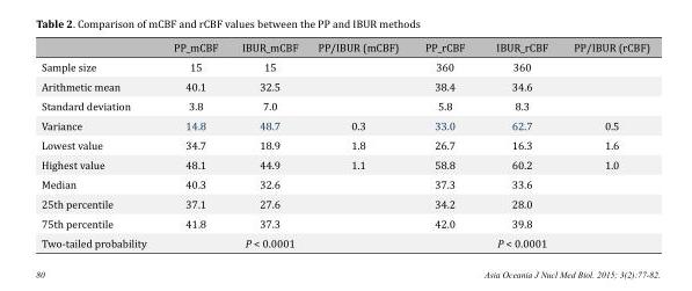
<table><thead><tr><td></td><td>PP_mCBF</td><td>IBUR_mCBF</td><td>PP/IBUR (mCBF)</td><td>PP_rCBF</td><td>IBUR_rCBF</td><td>PP/IBUR (rCBF)</td></tr></thead><tbody><tr><td>Sample size</td><td>15</td><td>15</td><td></td><td>360</td><td>360</td><td></td></tr><tr><td>Arithmetic mean</td><td>40.1</td><td>32.5</td><td></td><td>38.4</td><td>34.6</td><td></td></tr><tr><td>Standard deviation</td><td>3.8</td><td>7.0</td><td></td><td>5.8</td><td>8.3</td><td></td></tr><tr><td>Variance</td><td>14.8</td><td>48.7</td><td>0.3</td><td>33.0</td><td>62.7</td><td>0.5</td></tr><tr><td>Lowest value</td><td>34.7</td><td>18.9</td><td>1.8</td><td>26.7</td><td>16.3</td><td>1.6</td></tr><tr><td>Highest value</td><td>48.1</td><td>44.9</td><td>1.1</td><td>58.8</td><td>60.2</td><td>1.0</td></tr><tr><td>Median</td><td>40.3</td><td>32.6</td><td></td><td>37.3</td><td>33.6</td><td></td></tr><tr><td>25th percentile</td><td>37.1</td><td>27.6</td><td></td><td>34.2</td><td>28.0</td><td></td></tr><tr><td>75th percentile</td><td>41.8</td><td>37.3</td><td></td><td>42.0</td><td>39.8</td><td></td></tr><tr><td>Two-tailed probability</td><td></td><td>P &lt; 0.0001</td><td></td><td></td><td>P &lt; 0.0001</td><td></td></tr></tbody></table>